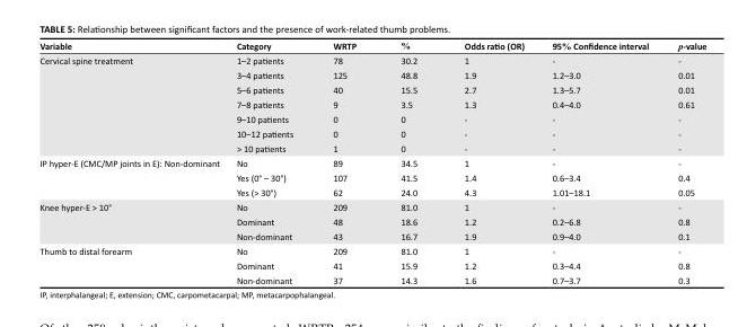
<table><thead><tr><td>Variable</td><td>Category</td><td>WRTP</td><td>%</td><td>Odds ratio (OR)</td><td>95% Confidence interval</td><td>p-value</td></tr></thead><tbody><tr><td rowspan="7">Cervical spine treatment</td><td>1–2 patients</td><td>78</td><td>30.2</td><td>1</td><td>-</td><td>-</td></tr><tr><td>3–4 patients</td><td>125</td><td>48.8</td><td>1.9</td><td>1.2–3.0</td><td>0.01</td></tr><tr><td>5–6 patients</td><td>40</td><td>15.5</td><td>2.7</td><td>1.3–5.7</td><td>0.01</td></tr><tr><td>7–8 patients</td><td>9</td><td>3.5</td><td>1.3</td><td>0.4–4.0</td><td>0.61</td></tr><tr><td>9–10 patients</td><td>0</td><td>0</td><td>-</td><td>-</td><td>-</td></tr><tr><td>10–12 patients</td><td>0</td><td>0</td><td>-</td><td>-</td><td>-</td></tr><tr><td>&gt; 10 patients</td><td>1</td><td>0</td><td>-</td><td>-</td><td>-</td></tr><tr><td rowspan="3">IP hyper-E (CMC/MP joints in E): Non-dominant</td><td>No</td><td>89</td><td>34.5</td><td>1</td><td>-</td><td>-</td></tr><tr><td>Yes (0° – 30°)</td><td>107</td><td>41.5</td><td>1.4</td><td>0.6–3.4</td><td>0.4</td></tr><tr><td>Yes (&gt; 30°)</td><td>62</td><td>24.0</td><td>4.3</td><td>1.01–18.1</td><td>0.05</td></tr><tr><td rowspan="3">Knee hyper-E &gt; 10°</td><td>No</td><td>209</td><td>81.0</td><td>1</td><td>-</td><td>-</td></tr><tr><td>Dominant</td><td>48</td><td>18.6</td><td>1.2</td><td>0.2–6.8</td><td>0.8</td></tr><tr><td>Non-dominant</td><td>43</td><td>16.7</td><td>1.9</td><td>0.9–4.0</td><td>0.1</td></tr><tr><td rowspan="3">Thumb to distal forearm</td><td>No</td><td>209</td><td>81.0</td><td>1</td><td>-</td><td>-</td></tr><tr><td>Dominant</td><td>41</td><td>15.9</td><td>1.2</td><td>0.3–4.4</td><td>0.8</td></tr><tr><td>Non-dominant</td><td>37</td><td>14.3</td><td>1.6</td><td>0.7–3.7</td><td>0.3</td></tr></tbody></table>